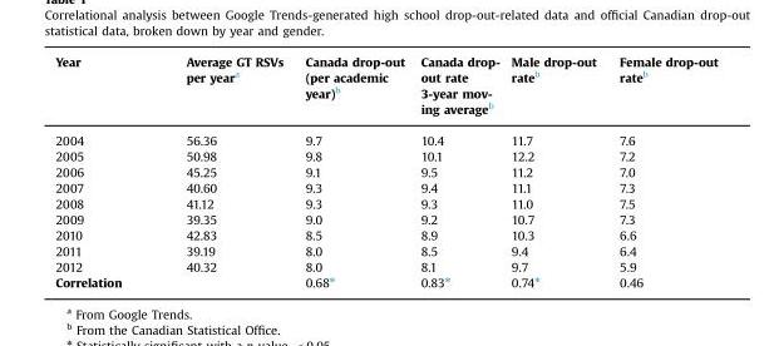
<table><thead><tr><td>Year</td><td>Average GT RSVs per year<sup>a</sup></td><td>Canada drop-out (per academic year)<sup>b</sup></td><td>Canada drop- out rate 3-year mov- ing averageb</td><td>Male drop-out rate<sup>b</sup></td><td>Female drop-out rate<sup>b</sup></td></tr></thead><tbody><tr><td>2004</td><td>56.36</td><td>9.7</td><td>10.4</td><td>11.7</td><td>7.6</td></tr><tr><td>2005</td><td>50.98</td><td>9.8</td><td>10.1</td><td>12.2</td><td>7.2</td></tr><tr><td>2006</td><td>45.25</td><td>9.1</td><td>9.5</td><td>11.2</td><td>7.0</td></tr><tr><td>2007</td><td>40.60</td><td>9.3</td><td>9.4</td><td>11.1</td><td>7.3</td></tr><tr><td>2008</td><td>41.12</td><td>9.3</td><td>9.3</td><td>11.0</td><td>7.5</td></tr><tr><td>2009</td><td>39.35</td><td>9.0</td><td>9.2</td><td>10.7</td><td>7.3</td></tr><tr><td>2010</td><td>42.83</td><td>8.5</td><td>8.9</td><td>10.3</td><td>6.6</td></tr><tr><td>2011</td><td>39.19</td><td>8.0</td><td>8.5</td><td>9.4</td><td>6.4</td></tr><tr><td>2012</td><td>40.32</td><td>8.0</td><td>8.1</td><td>9.7</td><td>5.9</td></tr><tr><td colspan="2">Correlation</td><td>0.68⁎</td><td>0.83⁎</td><td>0.74⁎</td><td>0.46</td></tr></tbody></table>